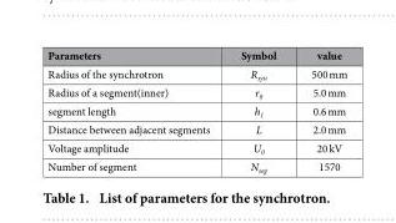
<table><thead><tr><td>Parameters</td><td>Symbol</td><td>value</td></tr></thead><tbody><tr><td>Radius of the synchrotron</td><td>R<sub>syn</sub></td><td>500 mm</td></tr><tr><td>Radius of a segment(inner)</td><td>r<sub>0</sub></td><td>5.0 mm</td></tr><tr><td>segment length</td><td>h<sub>1</sub></td><td>0.6 mm</td></tr><tr><td>Distance between adjacent segments</td><td>L</td><td>2.0 mm</td></tr><tr><td>Voltage amplitude</td><td>U<sub>0</sub></td><td>20 kV</td></tr><tr><td>Number of segment</td><td>N<sub>seg</sub></td><td>1570</td></tr></tbody></table>